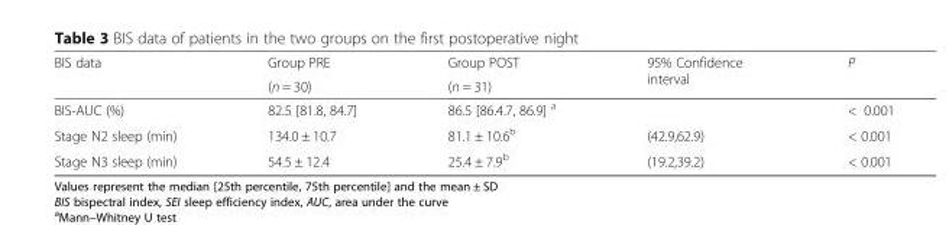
<table><thead><tr><td rowspan="2">BIS data</td><td rowspan="2">Group PRE (n = 30)</td><td rowspan="2">Group POST (n = 31)</td><td rowspan="2">95% Confidence interval</td><td rowspan="2">P</td></tr><tr></tr></thead><tbody><tr><td>BIS-AUC (%)</td><td>82.5 [81.8, 84.7]</td><td>86.5 [86.4.7, 86.9] a</td><td></td><td>&lt; 0.001</td></tr><tr><td>Stage N2 sleep (min)</td><td>134.0 ± 10.7</td><td>81.1 ± 10.6b</td><td>(42.9,62.9)</td><td>&lt; 0.001</td></tr><tr><td>Stage N3 sleep (min)</td><td>54.5 ± 12.4</td><td>25.4 ± 7.9b</td><td>(19.2,39.2)</td><td>&lt; 0.001</td></tr></tbody></table>